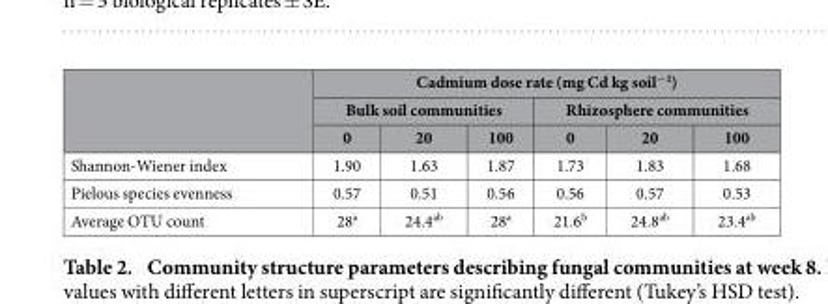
<table><thead><tr><td rowspan="3"></td><td colspan="6">Cadmium dose rate (mg Cd kg soil<sup>−1</sup>)</td></tr><tr><td colspan="3">Bulk soil communities</td><td colspan="3">Rhizosphere communities</td></tr><tr><td>0</td><td>20</td><td>100</td><td>0</td><td>20</td><td>100</td></tr></thead><tbody><tr><td>Shannon-Wiener index</td><td>1.90</td><td>1.63</td><td>1.87</td><td>1.73</td><td>1.83</td><td>1.68</td></tr><tr><td>Pielous species evenness</td><td>0.57</td><td>0.51</td><td>0.56</td><td>0.56</td><td>0.57</td><td>0.53</td></tr><tr><td>Average OTU count</td><td>28<sup>a</sup></td><td>24.4<sup>ab</sup></td><td>28<sup>a</sup></td><td>21.6<sup>b</sup></td><td>24.8<sup>ab</sup></td><td>23.4<sup>ab</sup></td></tr></tbody></table>